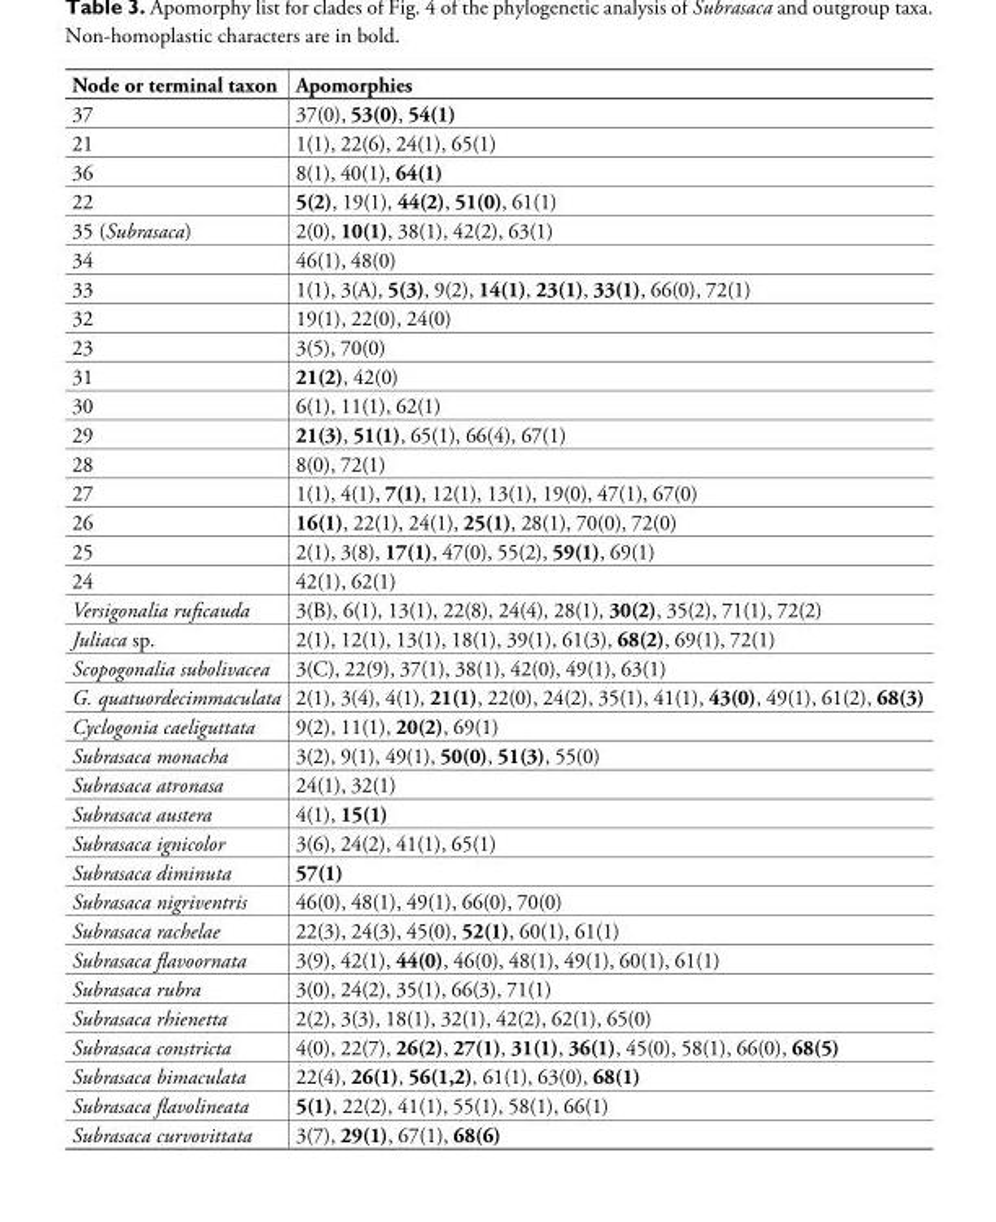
<table><thead><tr><td>Node or terminal taxon</td><td>Apomorphies</td></tr></thead><tbody><tr><td>37</td><td>37(0), 53(0), 54(1)</td></tr><tr><td>21</td><td>1(1), 22(6), 24(1), 65(1)</td></tr><tr><td>36</td><td>8(1), 40(1), 64(1)</td></tr><tr><td>22</td><td>5(2), 19(1), 44(2), 51(0), 61(1)</td></tr><tr><td>35 (Subrasaca)</td><td>2(0), 10(1), 38(1), 42(2), 63(1)</td></tr><tr><td>34</td><td>46(1), 48(0)</td></tr><tr><td>33</td><td>1(1), 3(A), 5(3), 9(2), 14(1), 23(1), 33(1), 66(0), 72(1)</td></tr><tr><td>32</td><td>19(1), 22(0), 24(0)</td></tr><tr><td>23</td><td>3(5), 70(0)</td></tr><tr><td>31</td><td>21(2), 42(0)</td></tr><tr><td>30</td><td>6(1), 11(1), 62(1)</td></tr><tr><td>29</td><td>21(3), 51(1), 65(1), 66(4), 67(1)</td></tr><tr><td>28</td><td>8(0), 72(1)</td></tr><tr><td>27</td><td>1(1), 4(1), 7(1), 12(1), 13(1), 19(0), 47(1), 67(0)</td></tr><tr><td>26</td><td>16(1), 22(1), 24(1), 25(1), 28(1), 70(0), 72(0)</td></tr><tr><td>25</td><td>2(1), 3(8), 17(1), 47(0), 55(2), 59(1), 69(1)</td></tr><tr><td>24</td><td>42(1), 62(1)</td></tr><tr><td>Versigonalia ruficauda</td><td>3(B), 6(1), 13(1), 22(8), 24(4), 28(1), 30(2), 35(2), 71(1), 72(2)</td></tr><tr><td>Juliaca sp.</td><td>2(1), 12(1), 13(1), 18(1), 39(1), 61(3), 68(2), 69(1), 72(1)</td></tr><tr><td>Scopogonalia subolivacea</td><td>3(C), 22(9), 37(1), 38(1), 42(0), 49(1), 63(1)</td></tr><tr><td>G. quatuordecimmaculata</td><td>2(1), 3(4), 4(1), 21(1), 22(0), 24(2), 35(1), 41(1), 43(0), 49(1), 61(2), 68(3)</td></tr><tr><td>Cyclogonia caeliguttata</td><td>9(2), 11(1), 20(2), 69(1)</td></tr><tr><td>Subrasaca monacha</td><td>3(2), 9(1), 49(1), 50(0), 51(3), 55(0)</td></tr><tr><td>Subrasaca atronasa</td><td>24(1), 32(1)</td></tr><tr><td>Subrasaca austera</td><td>4(1), 15(1)</td></tr><tr><td>Subrasaca ignicolor</td><td>3(6), 24(2), 41(1), 65(1)</td></tr><tr><td>Subrasaca diminuta</td><td>57(1)</td></tr><tr><td>Subrasaca nigriventris</td><td>46(0), 48(1), 49(1), 66(0), 70(0)</td></tr><tr><td>Subrasaca rachelae</td><td>22(3), 24(3), 45(0), 52(1), 60(1), 61(1)</td></tr><tr><td>Subrasaca flavoornata</td><td>3(9), 42(1), 44(0), 46(0), 48(1), 49(1), 60(1), 61(1)</td></tr><tr><td>Subrasaca rubra</td><td>3(0), 24(2), 35(1), 66(3), 71(1)</td></tr><tr><td>Subrasaca rhienetta</td><td>2(2), 3(3), 18(1), 32(1), 42(2), 62(1), 65(0)</td></tr><tr><td>Subrasaca constricta</td><td>4(0), 22(7), 26(2), 27(1), 31(1), 36(1), 45(0), 58(1), 66(0), 68(5)</td></tr><tr><td>Subrasaca bimaculata</td><td>22(4), 26(1), 56(1,2), 61(1), 63(0), 68(1)</td></tr><tr><td>Subrasaca flavolineata</td><td>5(1), 22(2), 41(1), 55(1), 58(1), 66(1)</td></tr><tr><td>Subrasaca curvovittata</td><td>3(7), 29(1), 67(1), 68(6)</td></tr></tbody></table>